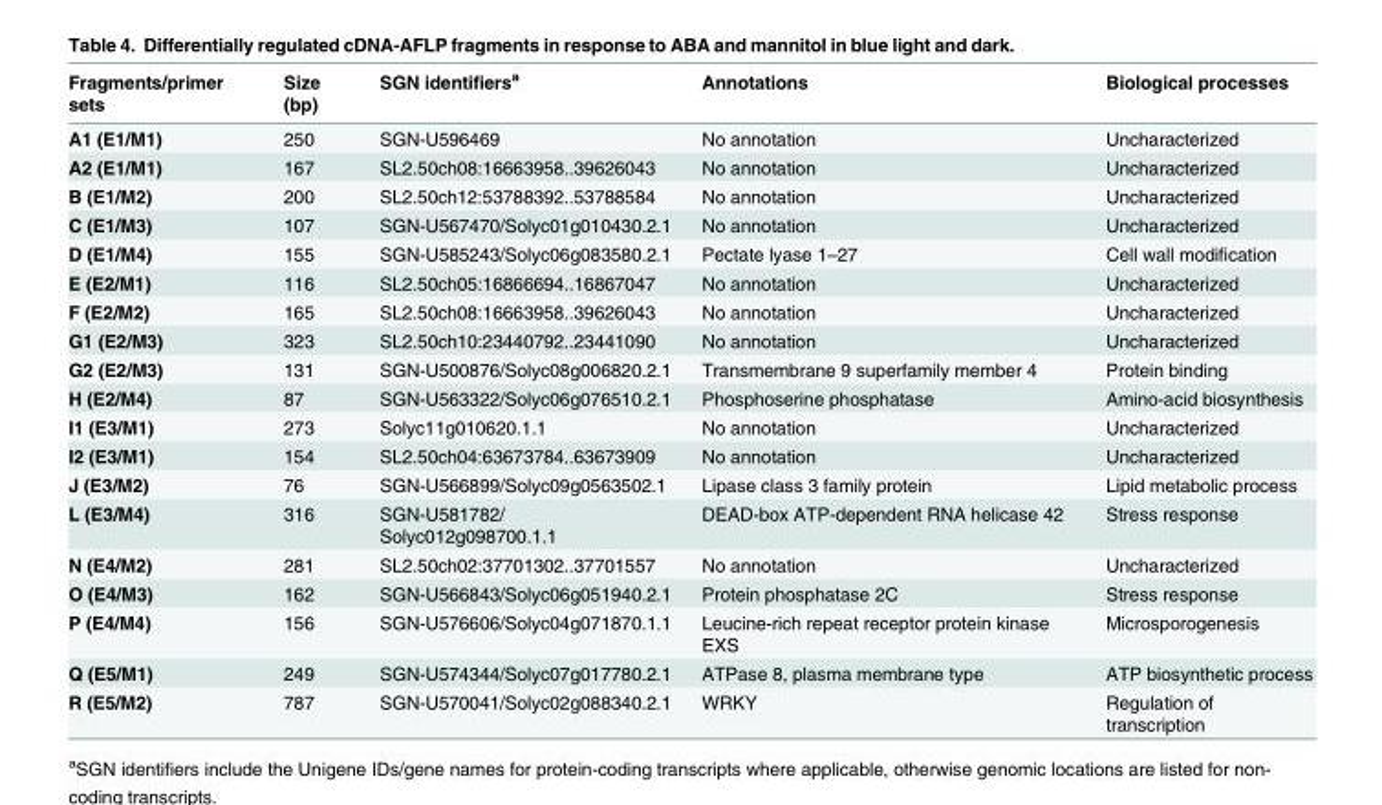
<table><thead><tr><td>Fragments/primer sets</td><td>Size (bp)</td><td>SGN identifiers<sup>a</sup></td><td>Annotations</td><td>Biological processes</td></tr></thead><tbody><tr><td>A1 (E1/M1)</td><td>250</td><td>SGN-U596469</td><td>No annotation</td><td>Uncharacterized</td></tr><tr><td>A2 (E1/M1)</td><td>167</td><td>SL2.50ch08:16663958..39626043</td><td>No annotation</td><td>Uncharacterized</td></tr><tr><td>B (E1/M2)</td><td>200</td><td>SL2.50ch12:53788392..53788584</td><td>No annotation</td><td>Uncharacterized</td></tr><tr><td>C (E1/M3)</td><td>107</td><td>SGN-U567470/Solyc01g010430.2.1</td><td>No annotation</td><td>Uncharacterized</td></tr><tr><td>D (E1/M4)</td><td>155</td><td>SGN-U585243/Solyc06g083580.2.1</td><td>Pectate lyase 1–27</td><td>Cell wall modification</td></tr><tr><td>E (E2/M1)</td><td>116</td><td>SL2.50ch05:16866694..16867047</td><td>No annotation</td><td>Uncharacterized</td></tr><tr><td>F (E2/M2)</td><td>165</td><td>SL2.50ch08:16663958..39626043</td><td>No annotation</td><td>Uncharacterized</td></tr><tr><td>G1 (E2/M3)</td><td>323</td><td>SL2.50ch10:23440792..23441090</td><td>No annotation</td><td>Uncharacterized</td></tr><tr><td>G2 (E2/M3)</td><td>131</td><td>SGN-U500876/Solyc08g006820.2.1</td><td>Transmembrane 9 superfamily member 4</td><td>Protein binding</td></tr><tr><td>H (E2/M4)</td><td>87</td><td>SGN-U563322/Solyc06g076510.2.1</td><td>Phosphoserine phosphatase</td><td>Amino-acid biosynthesis</td></tr><tr><td>I1 (E3/M1)</td><td>273</td><td>Solyc11g010620.1.1</td><td>No annotation</td><td>Uncharacterized</td></tr><tr><td>I2 (E3/M1)</td><td>154</td><td>SL2.50ch04:63673784..63673909</td><td>No annotation</td><td>Uncharacterized</td></tr><tr><td>J (E3/M2)</td><td>76</td><td>SGN-U566899/Solyc09g0563502.1</td><td>Lipase class 3 family protein</td><td>Lipid metabolic process</td></tr><tr><td>L (E3/M4)</td><td>316</td><td>SGN-U581782/ Solyc012g098700.1.1</td><td>DEAD-box ATP-dependent RNA helicase 42</td><td>Stress response</td></tr><tr><td>N (E4/M2)</td><td>281</td><td>SL2.50ch02:37701302..37701557</td><td>No annotation</td><td>Uncharacterized</td></tr><tr><td>O (E4/M3)</td><td>162</td><td>SGN-U566843/Solyc06g051940.2.1</td><td>Protein phosphatase 2C</td><td>Stress response</td></tr><tr><td>P (E4/M4)</td><td>156</td><td>SGN-U576606/Solyc04g071870.1.1</td><td>Leucine-rich repeat receptor protein kinase EXS</td><td>Microsporogenesis</td></tr><tr><td>Q (E5/M1)</td><td>249</td><td>SGN-U574344/Solyc07g017780.2.1</td><td>ATPase 8, plasma membrane type</td><td>ATP biosynthetic process</td></tr><tr><td>R (E5/M2)</td><td>787</td><td>SGN-U570041/Solyc02g088340.2.1</td><td>WRKY</td><td>Regulation of transcription</td></tr></tbody></table>